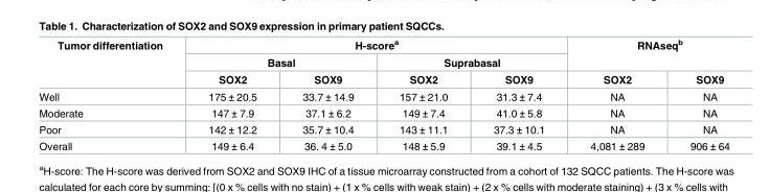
<table><thead><tr><td rowspan="3">Tumor differentiation</td><td colspan="4">H-score<sup>a</sup></td><td rowspan="2" colspan="2">RNAseq<sup>b</sup></td></tr><tr><td colspan="2">Basal</td><td colspan="2">Suprabasal</td></tr><tr><td>SOX2</td><td>SOX9</td><td>SOX2</td><td>SOX9</td><td>SOX2</td><td>SOX9</td></tr></thead><tbody><tr><td>Well</td><td>175 ± 20.5</td><td>33.7 ± 14.9</td><td>157 ± 21.0</td><td>31.3 ± 7.4</td><td>NA</td><td>NA</td></tr><tr><td>Moderate</td><td>147 ± 7.9</td><td>37.1 ± 6.2</td><td>149 ± 7.4</td><td>41.0 ± 5.8</td><td>NA</td><td>NA</td></tr><tr><td>Poor</td><td>142 ± 12.2</td><td>35.7 ± 10.4</td><td>143 ± 11.1</td><td>37.3 ± 10.1</td><td>NA</td><td>NA</td></tr><tr><td>Overall</td><td>149 ± 6.4</td><td>36. 4 ± 5.0</td><td>148 ± 5.9</td><td>39.1 ± 4.5</td><td>4,081 ± 289</td><td>906 ± 64</td></tr></tbody></table>